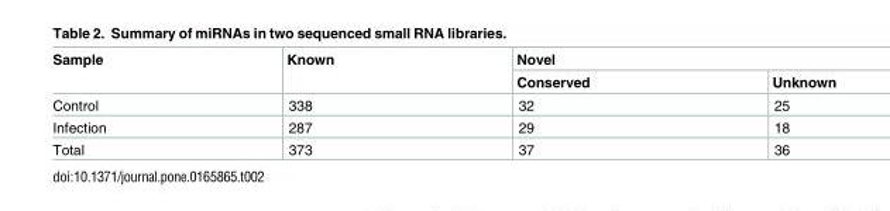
<table><thead><tr><td rowspan="2">Sample</td><td rowspan="2">Known</td><td colspan="2">Novel</td></tr><tr><td>Conserved</td><td>Unknown</td></tr></thead><tbody><tr><td>Control</td><td>338</td><td>32</td><td>25</td></tr><tr><td>Infection</td><td>287</td><td>29</td><td>18</td></tr><tr><td>Total</td><td>373</td><td>37</td><td>36</td></tr></tbody></table>